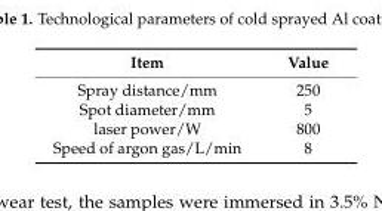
<table><thead><tr><td>Item</td><td>Value</td></tr></thead><tbody><tr><td>Spray distance/mm</td><td>250</td></tr><tr><td>Spot diameter/mm</td><td>5</td></tr><tr><td>laser power/W</td><td>800</td></tr><tr><td>Speed of argon gas/L/min</td><td>8</td></tr></tbody></table>